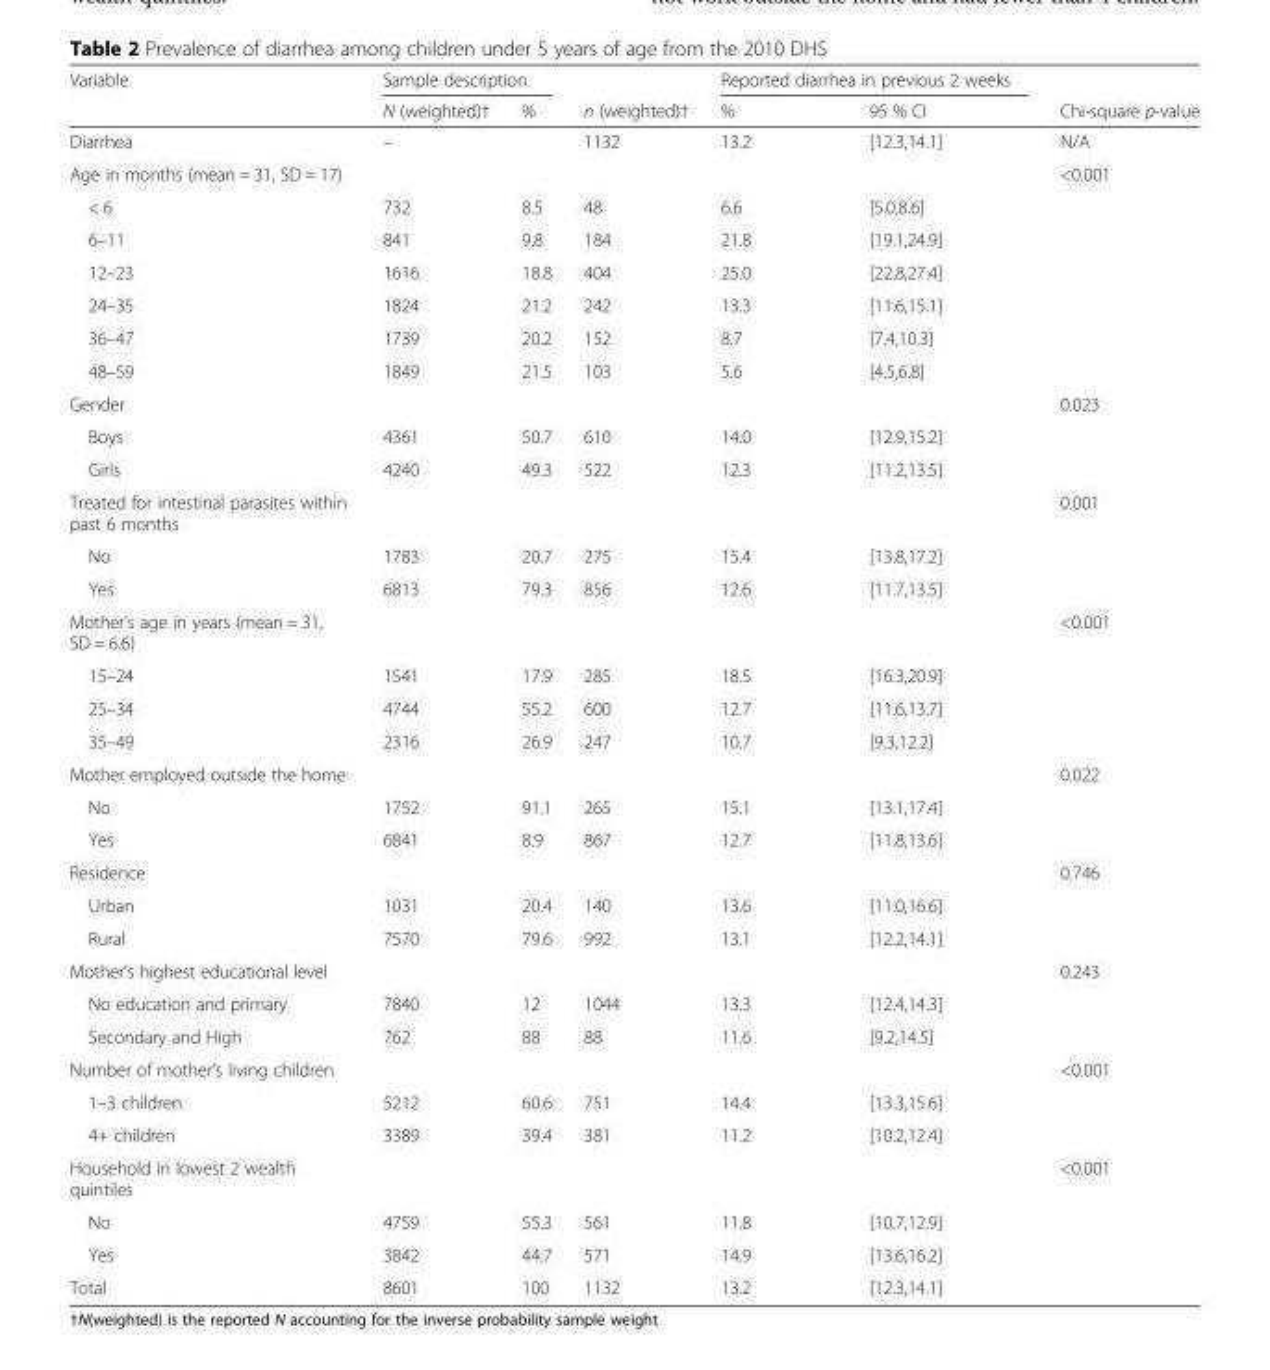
<table><thead><tr><td rowspan="2">Variable</td><td colspan="2">Sample description</td><td rowspan="2">n (weighted)†</td><td colspan="2">Reported diarrhea in previous 2 weeks</td><td rowspan="2">Chi-square p-value</td></tr><tr><td>N (weighted)†</td><td>%</td><td>%</td><td>95 % CI</td></tr></thead><tbody><tr><td>Diarrhea</td><td>–</td><td></td><td>1132</td><td>13.2</td><td>[12.3,14.1]</td><td>N/A</td></tr><tr><td>Age in months (mean = 31, SD = 17)</td><td></td><td></td><td></td><td></td><td></td><td>&lt;0.001</td></tr><tr><td>&lt; 6</td><td>732</td><td>8.5</td><td>48</td><td>6.6</td><td>[5.0,8.6]</td><td></td></tr><tr><td>6–11</td><td>841</td><td>9.8</td><td>184</td><td>21.8</td><td>[19.1,24.9]</td><td></td></tr><tr><td>12–23</td><td>1616</td><td>18.8</td><td>404</td><td>25.0</td><td>[22.8,27.4]</td><td></td></tr><tr><td>24–35</td><td>1824</td><td>21.2</td><td>242</td><td>13.3</td><td>[11.6,15.1]</td><td></td></tr><tr><td>36–47</td><td>1739</td><td>20.2</td><td>152</td><td>8.7</td><td>[7.4,10.3]</td><td></td></tr><tr><td>48–59</td><td>1849</td><td>21.5</td><td>103</td><td>5.6</td><td>[4.5,6.8]</td><td></td></tr><tr><td>Gender</td><td></td><td></td><td></td><td></td><td></td><td>0.023</td></tr><tr><td>Boys</td><td>4361</td><td>50.7</td><td>610</td><td>14.0</td><td>[12.9,15.2]</td><td></td></tr><tr><td>Girls</td><td>4240</td><td>49.3</td><td>522</td><td>12.3</td><td>[11.2,13.5]</td><td></td></tr><tr><td>Treated for intestinal parasites within past 6 months</td><td></td><td></td><td></td><td></td><td></td><td>0.001</td></tr><tr><td>No</td><td>1783</td><td>20.7</td><td>275</td><td>15.4</td><td>[13.8,17.2]</td><td></td></tr><tr><td>Yes</td><td>6813</td><td>79.3</td><td>856</td><td>12.6</td><td>[11.7,13.5]</td><td></td></tr><tr><td>Mother’s age in years (mean = 31, SD = 6.6)</td><td></td><td></td><td></td><td></td><td></td><td>&lt;0.001</td></tr><tr><td>15–24</td><td>1541</td><td>17.9</td><td>285</td><td>18.5</td><td>[16.3,20.9]</td><td></td></tr><tr><td>25–34</td><td>4744</td><td>55.2</td><td>600</td><td>12.7</td><td>[11.6,13.7]</td><td></td></tr><tr><td>35–49</td><td>2316</td><td>26.9</td><td>247</td><td>10.7</td><td>[9.3,12.2]</td><td></td></tr><tr><td>Mother employed outside the home</td><td></td><td></td><td></td><td></td><td></td><td>0.022</td></tr><tr><td>No</td><td>1752</td><td>91.1</td><td>265</td><td>15.1</td><td>[13.1,17.4]</td><td></td></tr><tr><td>Yes</td><td>6841</td><td>8.9</td><td>867</td><td>12.7</td><td>[11.8,13.6]</td><td></td></tr><tr><td>Residence</td><td></td><td></td><td></td><td></td><td></td><td>0.746</td></tr><tr><td>Urban</td><td>1031</td><td>20.4</td><td>140</td><td>13.6</td><td>[11.0,16.6]</td><td></td></tr><tr><td>Rural</td><td>7570</td><td>79.6</td><td>992</td><td>13.1</td><td>[12.2,14.1]</td><td></td></tr><tr><td>Mother’s highest educational level</td><td></td><td></td><td></td><td></td><td></td><td>0.243</td></tr><tr><td>No education and primary</td><td>7840</td><td>12</td><td>1044</td><td>13.3</td><td>[12.4,14.3]</td><td></td></tr><tr><td>Secondary and High</td><td>762</td><td>88</td><td>88</td><td>11.6</td><td>[9.2,14.5]</td><td></td></tr><tr><td>Number of mother’s living children</td><td></td><td></td><td></td><td></td><td></td><td>&lt;0.001</td></tr><tr><td>1–3 children</td><td>5212</td><td>60.6</td><td>751</td><td>14.4</td><td>[13.3,15.6]</td><td></td></tr><tr><td>4+ children</td><td>3389</td><td>39.4</td><td>381</td><td>11.2</td><td>[10.2,12.4]</td><td></td></tr><tr><td>Household in lowest 2 wealth quintiles</td><td></td><td></td><td></td><td></td><td></td><td>&lt;0.001</td></tr><tr><td>No</td><td>4759</td><td>55.3</td><td>561</td><td>11.8</td><td>[10.7,12.9]</td><td></td></tr><tr><td>Yes</td><td>3842</td><td>44.7</td><td>571</td><td>14.9</td><td>[13.6,16.2]</td><td></td></tr><tr><td>Total</td><td>8601</td><td>100</td><td>1132</td><td>13.2</td><td>[12.3,14.1]</td><td></td></tr></tbody></table>